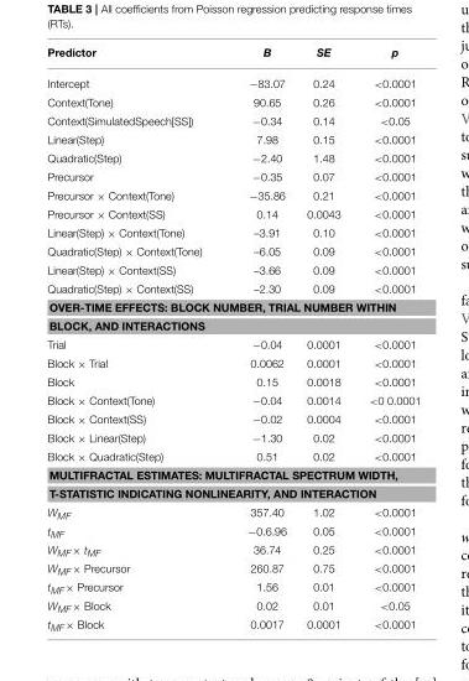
<table><thead><tr><td>Predictor</td><td>B</td><td>SE</td><td>p</td></tr></thead><tbody><tr><td>Intercept</td><td>−83.07</td><td>0.24</td><td>&lt;0.0001</td></tr><tr><td>Context(Tone)</td><td>90.65</td><td>0.26</td><td>&lt;0.0001</td></tr><tr><td>Context(SimulatedSpeech[SS])</td><td>−0.34</td><td>0.14</td><td>&lt;0.05</td></tr><tr><td>Linear(Step)</td><td>7.98</td><td>0.15</td><td>&lt;0.0001</td></tr><tr><td>Quadratic(Step)</td><td>−2.40</td><td>1.48</td><td>&lt;0.0001</td></tr><tr><td>Precursor</td><td>−0.35</td><td>0.07</td><td>&lt;0.0001</td></tr><tr><td>Precursor × Context(Tone)</td><td>−35.86</td><td>0.21</td><td>&lt;0.0001</td></tr><tr><td>Precursor × Context(SS)</td><td>0.14</td><td>0.0043</td><td>&lt;0.0001</td></tr><tr><td>Linear(Step) × Context(Tone)</td><td>–3.91</td><td>0.10</td><td>&lt;0.0001</td></tr><tr><td>Quadratic(Step) × Context(Tone)</td><td>–6.05</td><td>0.09</td><td>&lt;0.0001</td></tr><tr><td>Linear(Step) × Context(SS)</td><td>–3.66</td><td>0.09</td><td>&lt;0.0001</td></tr><tr><td>Quadratic(Step) × Context(SS)</td><td>–2.30</td><td>0.09</td><td>&lt;0.0001</td></tr><tr><td colspan="4">OVER-TIME EFFECTS: BLOCK NUMBER, TRIAL NUMBER WITHIN BLOCK, AND INTERACTIONS</td></tr><tr><td>Trial</td><td>−0.04</td><td>0.0001</td><td>&lt;0.0001</td></tr><tr><td>Block × Trial</td><td>0.0062</td><td>0.0001</td><td>&lt;0.0001</td></tr><tr><td>Block</td><td>0.15</td><td>0.0018</td><td>&lt;0.0001</td></tr><tr><td>Block × Context(Tone)</td><td>−0.04</td><td>0.0014</td><td>&lt;0 0.0001</td></tr><tr><td>Block × Context(SS)</td><td>−0.02</td><td>0.0004</td><td>&lt;0.0001</td></tr><tr><td>Block × Linear(Step)</td><td>−1.30</td><td>0.02</td><td>&lt;0.0001</td></tr><tr><td>Block × Quadratic(Step)</td><td>0.51</td><td>0.02</td><td>&lt;0.0001</td></tr><tr><td colspan="4">MULTIFRACTAL ESTIMATES: MULTIFRACTAL SPECTRUM WIDTH, T-STATISTIC INDICATING NONLINEARITY, AND INTERACTION</td></tr><tr><td>WMF</td><td>357.40</td><td>1.02</td><td>&lt;0.0001</td></tr><tr><td>tMF</td><td>−0.6.96</td><td>0.05</td><td>&lt;0.0001</td></tr><tr><td>WMF× tMF</td><td>36.74</td><td>0.25</td><td>&lt;0.0001</td></tr><tr><td>WMF× Precursor</td><td>260.87</td><td>0.75</td><td>&lt;0.0001</td></tr><tr><td>tMF× Precursor</td><td>1.56</td><td>0.01</td><td>&lt;0.0001</td></tr><tr><td>WMF× Block</td><td>0.02</td><td>0.01</td><td>&lt;0.05</td></tr><tr><td>tMF× Block</td><td>0.0017</td><td>0.0001</td><td>&lt;0.0001</td></tr></tbody></table>